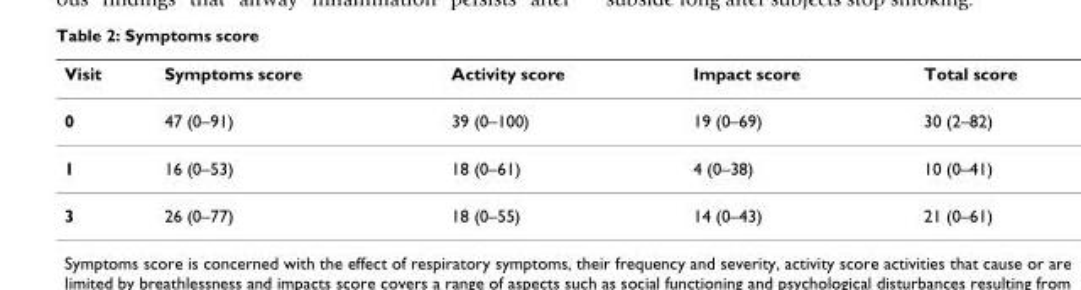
<table><thead><tr><td>Visit</td><td>Symptoms score</td><td>Activity score</td><td>Impact score</td><td>Total score</td></tr></thead><tbody><tr><td>0</td><td>47 (0–91)</td><td>39 (0–100)</td><td>19 (0–69)</td><td>30 (2–82)</td></tr><tr><td>1</td><td>16 (0–53)</td><td>18 (0–61)</td><td>4 (0–38)</td><td>10 (0–41)</td></tr><tr><td>3</td><td>26 (0–77)</td><td>18 (0–55)</td><td>14 (0–43)</td><td>21 (0–61)</td></tr></tbody></table>